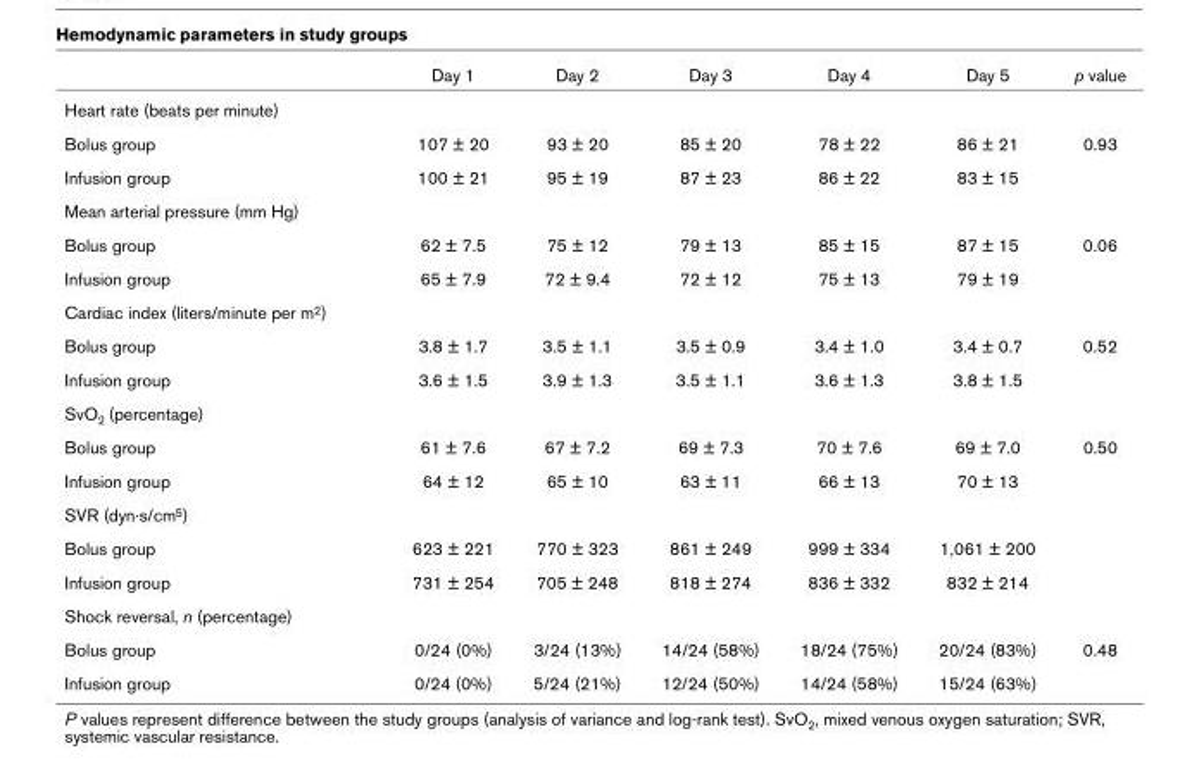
<table><thead><tr><td></td><td>Day 1</td><td>Day 2</td><td>Day 3</td><td>Day 4</td><td>Day 5</td><td>p value</td></tr></thead><tbody><tr><td colspan="7">Heart rate (beats per minute)</td></tr><tr><td>Bolus group</td><td>107 ± 20</td><td>93 ± 20</td><td>85 ± 20</td><td>78 ± 22</td><td>86 ± 21</td><td>0.93</td></tr><tr><td>Infusion group</td><td>100 ± 21</td><td>95 ± 19</td><td>87 ± 23</td><td>86 ± 22</td><td>83 ± 15</td><td></td></tr><tr><td colspan="7">Mean arterial pressure (mm Hg)</td></tr><tr><td>Bolus group</td><td>62 ± 7.5</td><td>75 ± 12</td><td>79 ± 13</td><td>85 ± 15</td><td>87 ± 15</td><td>0.06</td></tr><tr><td>Infusion group</td><td>65 ± 7.9</td><td>72 ± 9.4</td><td>72 ± 12</td><td>75 ± 13</td><td>79 ± 19</td><td></td></tr><tr><td colspan="7">Cardiac index (liters/minute per m<sup>2</sup>)</td></tr><tr><td>Bolus group</td><td>3.8 ± 1.7</td><td>3.5 ± 1.1</td><td>3.5 ± 0.9</td><td>3.4 ± 1.0</td><td>3.4 ± 0.7</td><td>0.52</td></tr><tr><td>Infusion group</td><td>3.6 ± 1.5</td><td>3.9 ± 1.3</td><td>3.5 ± 1.1</td><td>3.6 ± 1.3</td><td>3.8 ± 1.5</td><td></td></tr><tr><td colspan="7">SvO<sub>2</sub> (percentage)</td></tr><tr><td>Bolus group</td><td>61 ± 7.6</td><td>67 ± 7.2</td><td>69 ± 7.3</td><td>70 ± 7.6</td><td>69 ± 7.0</td><td>0.50</td></tr><tr><td>Infusion group</td><td>64 ± 12</td><td>65 ± 10</td><td>63 ± 11</td><td>66 ± 13</td><td>70 ± 13</td><td></td></tr><tr><td colspan="7">SVR (dyn·s/cm<sup>5</sup>)</td></tr><tr><td>Bolus group</td><td>623 ± 221</td><td>770 ± 323</td><td>861 ± 249</td><td>999 ± 334</td><td>1,061 ± 200</td><td></td></tr><tr><td>Infusion group</td><td>731 ± 254</td><td>705 ± 248</td><td>818 ± 274</td><td>836 ± 332</td><td>832 ± 214</td><td></td></tr><tr><td colspan="7">Shock reversal, n (percentage)</td></tr><tr><td>Bolus group</td><td>0/24 (0%)</td><td>3/24 (13%)</td><td>14/24 (58%)</td><td>18/24 (75%)</td><td>20/24 (83%)</td><td>0.48</td></tr><tr><td>Infusion group</td><td>0/24 (0%)</td><td>5/24 (21%)</td><td>12/24 (50%)</td><td>14/24 (58%)</td><td>15/24 (63%)</td><td></td></tr></tbody></table>